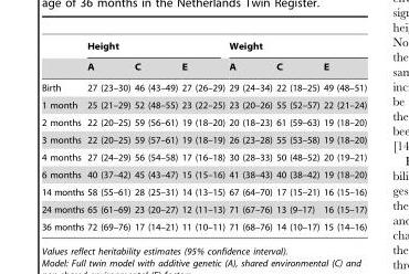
<table><thead><tr><td rowspan="2"></td><td colspan="3">Height</td><td colspan="3">Weight</td></tr><tr><td>A</td><td>C</td><td>E</td><td>A</td><td>C</td><td>E</td></tr></thead><tbody><tr><td>Birth</td><td>27 (23–30)</td><td>46 (43–49)</td><td>27 (26–29)</td><td>29 (24–34)</td><td>22 (18–25)</td><td>49 (48–51)</td></tr><tr><td>1 month</td><td>25 (21–29)</td><td>52 (48–55)</td><td>23 (22–25)</td><td>23 (20–26)</td><td>55 (52–57)</td><td>22 (21–24)</td></tr><tr><td>2 months</td><td>22 (20–25)</td><td>59 (56–61)</td><td>19 (18–20)</td><td>20 (18–23)</td><td>61 (59–63)</td><td>19 (18–20)</td></tr><tr><td>3 months</td><td>22 (20–25)</td><td>59 (57–61)</td><td>19 (18–19)</td><td>26 (23–28)</td><td>55 (53–58)</td><td>19 (18–20)</td></tr><tr><td>4 months</td><td>27 (24–29)</td><td>56 (54–58)</td><td>17 (16–18)</td><td>30 (28–33)</td><td>50 (48–52)</td><td>20 (19–21)</td></tr><tr><td>6 months</td><td>40 (37–42)</td><td>45 (43–47)</td><td>15 (15–16)</td><td>41 (38–43)</td><td>40 (38–42)</td><td>19 (18–20)</td></tr><tr><td>14 months</td><td>58 (55–61)</td><td>28 (25–31)</td><td>14 (13–15)</td><td>67 (64–70)</td><td>17 (15–21)</td><td>16 (15–16)</td></tr><tr><td>24 months</td><td>65 (61–69)</td><td>23 (20–27)</td><td>12 (11–13)</td><td>71 (67–76)</td><td>13 (9–17)</td><td>16 (15–17)</td></tr><tr><td>36 months</td><td>72 (69–76)</td><td>17 (14–21)</td><td>11 (10–11)</td><td>71 (68–76)</td><td>14 (10–17)</td><td>15 (14–16)</td></tr></tbody></table>